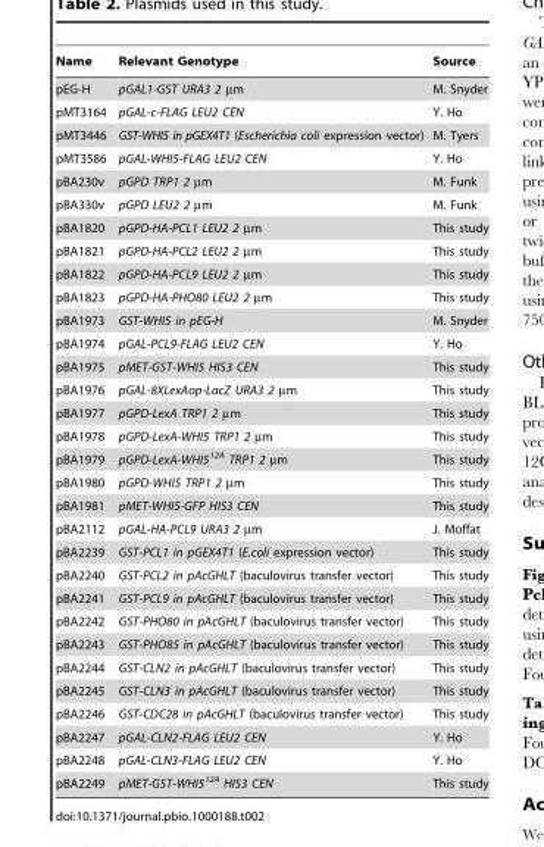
<table><thead><tr><td>Name</td><td>Relevant Genotype</td><td>Source</td></tr></thead><tbody><tr><td>pEG-H</td><td>pGAL1-GST URA3 2 µm</td><td>M. Snyder</td></tr><tr><td>pMT3164</td><td>pGAL-c-FLAG LEU2 CEN</td><td>Y. Ho</td></tr><tr><td>pMT3446</td><td>GST-WHI5 in pGEX4T1 (Escherichia coli expression vector)</td><td>M. Tyers</td></tr><tr><td>pMT3586</td><td>pGAL-WHI5-FLAG LEU2 CEN</td><td>Y. Ho</td></tr><tr><td>pBA230v</td><td>pGPD TRP1 2 µm</td><td>M. Funk</td></tr><tr><td>pBA330v</td><td>pGPD LEU2 2 µm</td><td>M. Funk</td></tr><tr><td>pBA1820</td><td>pGPD-HA-PCL1 LEU2 2 µm</td><td>This study</td></tr><tr><td>pBA1821</td><td>pGPD-HA-PCL2 LEU2 2 µm</td><td>This study</td></tr><tr><td>pBA1822</td><td>pGPD-HA-PCL9 LEU2 2 µm</td><td>This study</td></tr><tr><td>pBA1823</td><td>pGPD-HA-PHO80 LEU2 2 µm</td><td>This study</td></tr><tr><td>pBA1973</td><td>GST-WHI5 in pEG-H</td><td>M. Snyder</td></tr><tr><td>pBA1974</td><td>pGAL-PCL9-FLAG LEU2 CEN</td><td>Y. Ho</td></tr><tr><td>pBA1975</td><td>pMET-GST-WHI5 HIS3 CEN</td><td>This study</td></tr><tr><td>pBA1976</td><td>pGAL-8XLexAop-LacZ URA3 2 µm</td><td>This study</td></tr><tr><td>pBA1977</td><td>pGPD-LexA TRP1 2 µm</td><td>This study</td></tr><tr><td>pBA1978</td><td>pGPD-LexA-WHI5 TRP1 2 µm</td><td>This study</td></tr><tr><td>pBA1979</td><td>pGPD-LexA-WHI5<sup>12A</sup> TRP1 2 µm</td><td>This study</td></tr><tr><td>pBA1980</td><td>pGPD-WHI5 TRP1 2 µm</td><td>This study</td></tr><tr><td>pBA1981</td><td>pMET-WHI5-GFP HIS3 CEN</td><td>This study</td></tr><tr><td>pBA2112</td><td>pGAL-HA-PCL9 URA3 2 µm</td><td>J. Moffat</td></tr><tr><td>pBA2239</td><td>GST-PCL1 in pGEX4T1 (E.coli expression vector)</td><td>This study</td></tr><tr><td>pBA2240</td><td>GST-PCL2 in pAcGHLT (baculovirus transfer vector)</td><td>This study</td></tr><tr><td>pBA2241</td><td>GST-PCL9 in pAcGHLT (baculovirus transfer vector)</td><td>This study</td></tr><tr><td>pBA2242</td><td>GST-PHO80 in pAcGHLT (baculovirus transfer vector)</td><td>This study</td></tr><tr><td>pBA2243</td><td>GST-PHO85 in pAcGHLT (baculovirus transfer vector)</td><td>This study</td></tr><tr><td>pBA2244</td><td>GST-CLN2 in pAcGHLT (baculovirus transfer vector)</td><td>This study</td></tr><tr><td>pBA2245</td><td>GST-CLN3 in pAcGHLT (baculovirus transfer vector)</td><td>This study</td></tr><tr><td>pBA2246</td><td>GST-CDC28 in pAcGHLT (baculovirus transfer vector)</td><td>This study</td></tr><tr><td>pBA2247</td><td>pGAL-CLN2-FLAG LEU2 CEN</td><td>Y. Ho</td></tr><tr><td>pBA2248</td><td>pGAL-CLN3-FLAG LEU2 CEN</td><td>Y. Ho</td></tr><tr><td>pBA2249</td><td>pMET-GST-WHI5<sup>12A</sup> HIS3 CEN</td><td>This study</td></tr></tbody></table>